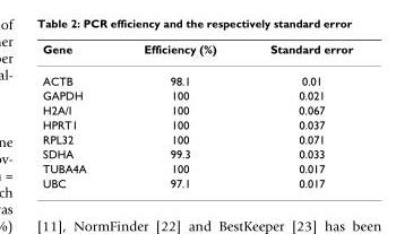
<table><thead><tr><td>Gene</td><td>Efficiency (%)</td><td>Standard error</td></tr></thead><tbody><tr><td>ACTB</td><td>98.1</td><td>0.01</td></tr><tr><td>GAPDH</td><td>100</td><td>0.021</td></tr><tr><td>H2A/I</td><td>100</td><td>0.067</td></tr><tr><td>HPRT1</td><td>100</td><td>0.037</td></tr><tr><td>RPL32</td><td>100</td><td>0.071</td></tr><tr><td>SDHA</td><td>99.3</td><td>0.033</td></tr><tr><td>TUBA4A</td><td>100</td><td>0.017</td></tr><tr><td>UBC</td><td>97.1</td><td>0.017</td></tr></tbody></table>